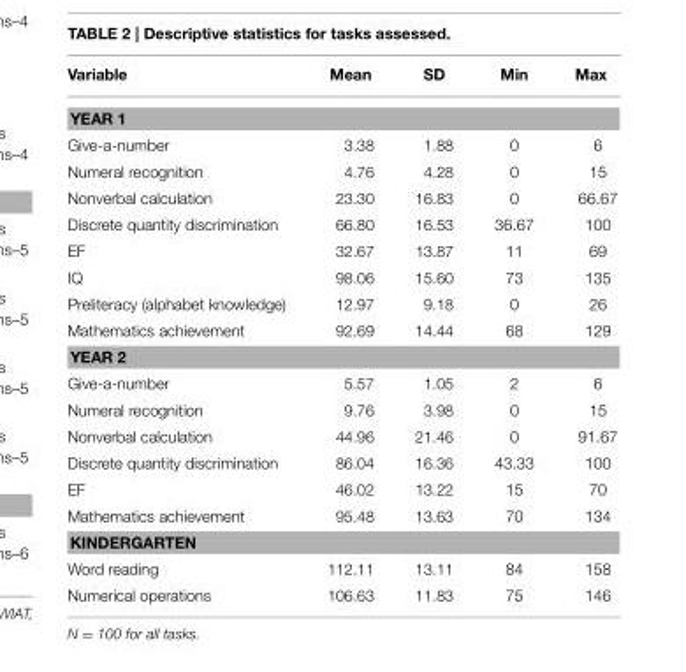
<table><thead><tr><td>Variable</td><td>Mean</td><td>SD</td><td>Min</td><td>Max</td></tr></thead><tbody><tr><td colspan="5">YEAR 1</td></tr><tr><td>Give-a-number</td><td>3.38</td><td>1.88</td><td>0</td><td>6</td></tr><tr><td>Numeral recognition</td><td>4.76</td><td>4.28</td><td>0</td><td>15</td></tr><tr><td>Nonverbal calculation</td><td>23.30</td><td>16.83</td><td>0</td><td>66.67</td></tr><tr><td>Discrete quantity discrimination</td><td>66.80</td><td>16.53</td><td>36.67</td><td>100</td></tr><tr><td>EF</td><td>32.67</td><td>13.87</td><td>11</td><td>69</td></tr><tr><td>IQ</td><td>98.06</td><td>15.60</td><td>73</td><td>135</td></tr><tr><td>Preliteracy (alphabet knowledge)</td><td>12.97</td><td>9.18</td><td>0</td><td>26</td></tr><tr><td>Mathematics achievement</td><td>92.69</td><td>14.44</td><td>68</td><td>129</td></tr><tr><td colspan="5">YEAR 2</td></tr><tr><td>Give-a-number</td><td>5.57</td><td>1.05</td><td>2</td><td>6</td></tr><tr><td>Numeral recognition</td><td>9.76</td><td>3.98</td><td>0</td><td>15</td></tr><tr><td>Nonverbal calculation</td><td>44.96</td><td>21.46</td><td>0</td><td>91.67</td></tr><tr><td>Discrete quantity discrimination</td><td>86.04</td><td>16.36</td><td>43.33</td><td>100</td></tr><tr><td>EF</td><td>46.02</td><td>13.22</td><td>15</td><td>70</td></tr><tr><td>Mathematics achievement</td><td>95.48</td><td>13.63</td><td>70</td><td>134</td></tr><tr><td colspan="5">KINDERGARTEN</td></tr><tr><td>Word reading</td><td>112.11</td><td>13.11</td><td>84</td><td>158</td></tr><tr><td>Numerical operations</td><td>106.63</td><td>11.83</td><td>75</td><td>146</td></tr></tbody></table>